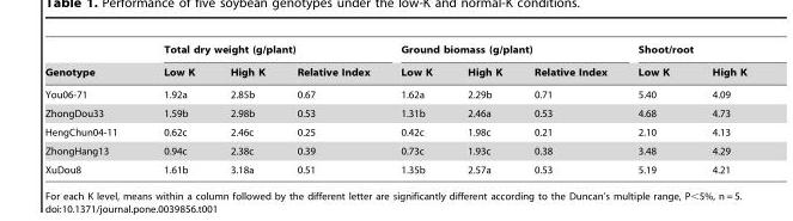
<table><thead><tr><td rowspan="2">Genotype</td><td colspan="3">Total dry weight (g/plant)</td><td colspan="3">Ground biomass (g/plant)</td><td colspan="2">Shoot/root</td></tr><tr><td>Low K</td><td>High K</td><td>Relative Index</td><td>Low K</td><td>High K</td><td>Relative Index</td><td>Low K</td><td>High K</td></tr></thead><tbody><tr><td>You06-71</td><td>1.92a</td><td>2.85b</td><td>0.67</td><td>1.62a</td><td>2.29b</td><td>0.71</td><td>5.40</td><td>4.09</td></tr><tr><td>ZhongDou33</td><td>1.59b</td><td>2.98b</td><td>0.53</td><td>1.31b</td><td>2.46a</td><td>0.53</td><td>4.68</td><td>4.73</td></tr><tr><td>HengChun04-11</td><td>0.62c</td><td>2.46c</td><td>0.25</td><td>0.42c</td><td>1.98c</td><td>0.21</td><td>2.10</td><td>4.13</td></tr><tr><td>ZhongHang13</td><td>0.94c</td><td>2.38c</td><td>0.39</td><td>0.73c</td><td>1.93c</td><td>0.38</td><td>3.48</td><td>4.29</td></tr><tr><td>XuDou8</td><td>1.61b</td><td>3.18a</td><td>0.51</td><td>1.35b</td><td>2.57a</td><td>0.53</td><td>5.19</td><td>4.21</td></tr></tbody></table>